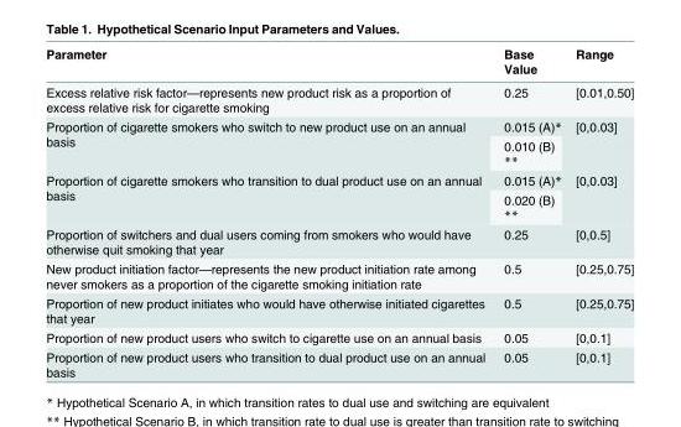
<table><thead><tr><td>Parameter</td><td>Base Value</td><td>Range</td></tr></thead><tbody><tr><td>Excess relative risk factor—represents new product risk as a proportion of excess relative risk for cigarette smoking</td><td>0.25</td><td>[0.01,0.50]</td></tr><tr><td rowspan="2">Proportion of cigarette smokers who switch to new product use on an annual basis</td><td>0.015 (A)*</td><td rowspan="2">[0,0.03]</td></tr><tr><td>0.010 (B) **</td></tr><tr><td rowspan="2">Proportion of cigarette smokers who transition to dual product use on an annual basis</td><td>0.015 (A)*</td><td rowspan="2">[0,0.03]</td></tr><tr><td>0.020 (B) **</td></tr><tr><td>Proportion of switchers and dual users coming from smokers who would have otherwise quit smoking that year</td><td>0.25</td><td>[0,0.5]</td></tr><tr><td>New product initiation factor—represents the new product initiation rate among never smokers as a proportion of the cigarette smoking initiation rate</td><td>0.5</td><td>[0.25,0.75]</td></tr><tr><td>Proportion of new product initiates who would have otherwise initiated cigarettes that year</td><td>0.5</td><td>[0.25,0.75]</td></tr><tr><td>Proportion of new product users who switch to cigarette use on an annual basis</td><td>0.05</td><td>[0,0.1]</td></tr><tr><td>Proportion of new product users who transition to dual product use on an annual basis</td><td>0.05</td><td>[0,0.1]</td></tr></tbody></table>